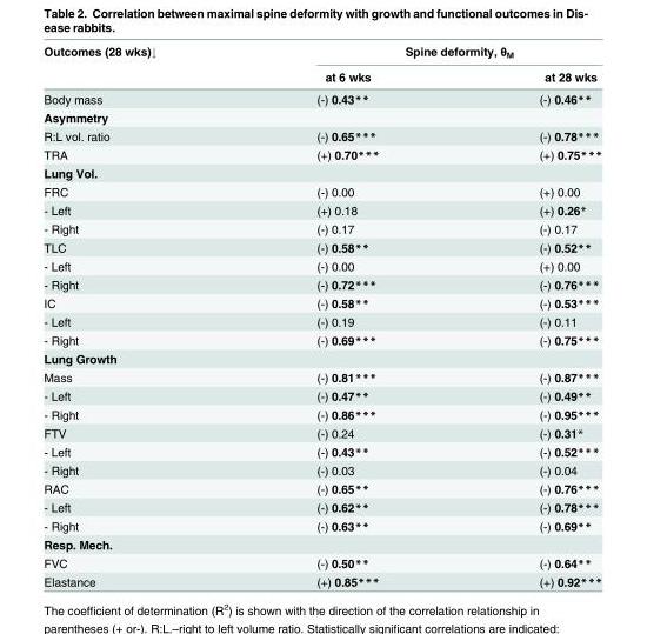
<table><thead><tr><td rowspan="2">Outcomes (28 wks)↓</td><td colspan="2">Spine deformity, θ<sub>M</sub></td></tr><tr><td>at 6 wks</td><td>at 28 wks</td></tr></thead><tbody><tr><td>Body mass</td><td>(-) 0.43**</td><td>(-) 0.46**</td></tr><tr><td colspan="3">Asymmetry</td></tr><tr><td>R:L vol. ratio</td><td>(-) 0.65***</td><td>(-) 0.78***</td></tr><tr><td>TRA</td><td>(+) 0.70***</td><td>(+) 0.75***</td></tr><tr><td colspan="3">Lung Vol.</td></tr><tr><td>FRC</td><td>(-) 0.00</td><td>(+) 0.00</td></tr><tr><td>- Left</td><td>(+) 0.18</td><td>(+) 0.26*</td></tr><tr><td>- Right</td><td>(-) 0.17</td><td>(-) 0.17</td></tr><tr><td>TLC</td><td>(-) 0.58**</td><td>(-) 0.52**</td></tr><tr><td>- Left</td><td>(-) 0.00</td><td>(+) 0.00</td></tr><tr><td>- Right</td><td>(-) 0.72***</td><td>(-) 0.76***</td></tr><tr><td>IC</td><td>(-) 0.58**</td><td>(-) 0.53***</td></tr><tr><td>- Left</td><td>(-) 0.19</td><td>(-) 0.11</td></tr><tr><td>- Right</td><td>(-) 0.69***</td><td>(-) 0.75***</td></tr><tr><td colspan="3">Lung Growth</td></tr><tr><td>Mass</td><td>(-) 0.81***</td><td>(-) 0.87***</td></tr><tr><td>- Left</td><td>(-) 0.47**</td><td>(-) 0.49**</td></tr><tr><td>- Right</td><td>(-) 0.86***</td><td>(-) 0.95***</td></tr><tr><td>FTV</td><td>(-) 0.24</td><td>(-) 0.31*</td></tr><tr><td>- Left</td><td>(-) 0.43**</td><td>(-) 0.52***</td></tr><tr><td>- Right</td><td>(-) 0.03</td><td>(-) 0.04</td></tr><tr><td>RAC</td><td>(-) 0.65**</td><td>(-) 0.76***</td></tr><tr><td>- Left</td><td>(-) 0.62**</td><td>(-) 0.78***</td></tr><tr><td>- Right</td><td>(-) 0.63**</td><td>(-) 0.69**</td></tr><tr><td colspan="3">Resp. Mech.</td></tr><tr><td>FVC</td><td>(-) 0.50**</td><td>(-) 0.64**</td></tr><tr><td>Elastance</td><td>(+) 0.85***</td><td>(+) 0.92***</td></tr></tbody></table>